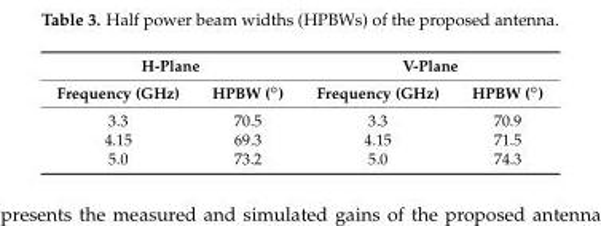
<table><thead><tr><td colspan="2">H-Plane</td><td colspan="2">V-Plane</td></tr><tr><td>Frequency (GHz)</td><td>HPBW (◦)</td><td>Frequency (GHz)</td><td>HPBW (◦)</td></tr></thead><tbody><tr><td>3.3</td><td>70.5</td><td>3.3</td><td>70.9</td></tr><tr><td>4.15</td><td>69.3</td><td>4.15</td><td>71.5</td></tr><tr><td>5.0</td><td>73.2</td><td>5.0</td><td>74.3</td></tr></tbody></table>